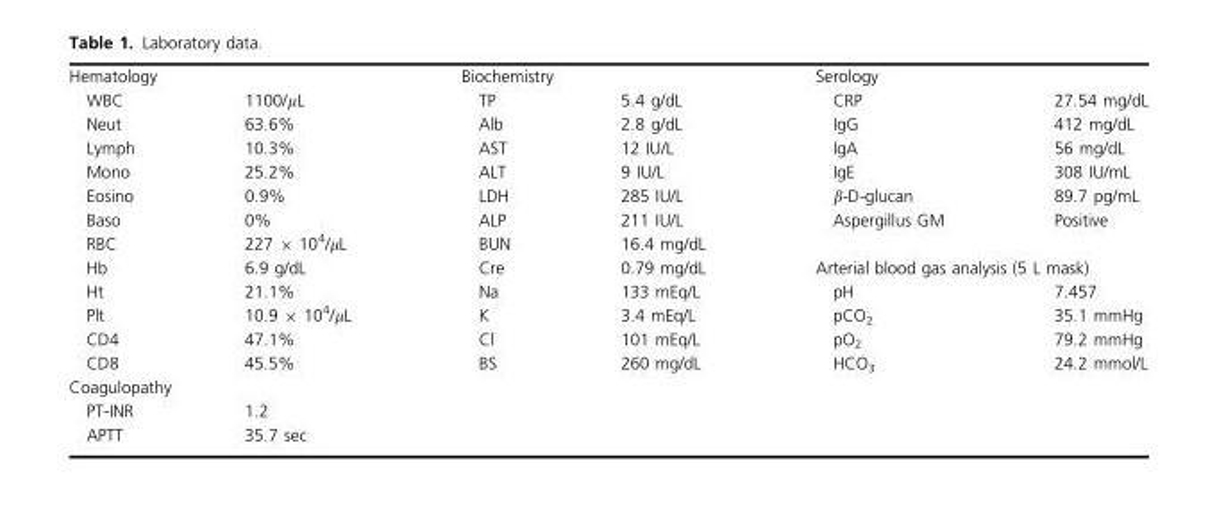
<table><tbody><tr><td colspan="2">Hematology</td><td colspan="2">Biochemistry</td><td colspan="2">Serology</td></tr><tr><td>WBC</td><td>1100/μL</td><td>TP</td><td>5.4 g/dL</td><td>CRP</td><td>27.54 mg/dL</td></tr><tr><td>Neut</td><td>63.6%</td><td>Alb</td><td>2.8 g/dL</td><td>IgG</td><td>412 mg/dL</td></tr><tr><td>Lymph</td><td>10.3%</td><td>AST</td><td>12 IU/L</td><td>IgA</td><td>56 mg/dL</td></tr><tr><td>Mono</td><td>25.2%</td><td>ALT</td><td>9 IU/L</td><td>IgE</td><td>308 IU/mL</td></tr><tr><td>Eosino</td><td>0.9%</td><td>LDH</td><td>285 IU/L</td><td>β-D-glucan</td><td>89.7 pg/mL</td></tr><tr><td>Baso</td><td>0%</td><td>ALP</td><td>211 IU/L</td><td>Aspergillus GM</td><td>Positive</td></tr><tr><td>RBC</td><td>227 × 10<sup>4</sup>/μL</td><td>BUN</td><td>16.4 mg/dL</td><td></td><td></td></tr><tr><td>Hb</td><td>6.9 g/dL</td><td>Cre</td><td>0.79 mg/dL</td><td colspan="2">Arterial blood gas analysis (5 L mask)</td></tr><tr><td>Ht</td><td>21.1%</td><td>Na</td><td>133 mEq/L</td><td>pH</td><td>7.457</td></tr><tr><td>Plt</td><td>10.9 × 10<sup>4</sup>/μL</td><td>K</td><td>3.4 mEq/L</td><td>pCO<sub>2</sub></td><td>35.1 mmHg</td></tr><tr><td>CD4</td><td>47.1%</td><td>Cl</td><td>101 mEq/L</td><td>pO<sub>2</sub></td><td>79.2 mmHg</td></tr><tr><td>CD8</td><td>45.5%</td><td>BS</td><td>260 mg/dL</td><td>HCO<sub>3</sub></td><td>24.2 mmol/L</td></tr><tr><td colspan="6">Coagulopathy</td></tr><tr><td>PT-INR</td><td>1.2</td><td></td><td></td><td></td><td></td></tr><tr><td>APTT</td><td>35.7 sec</td><td></td><td></td><td></td><td></td></tr></tbody></table>